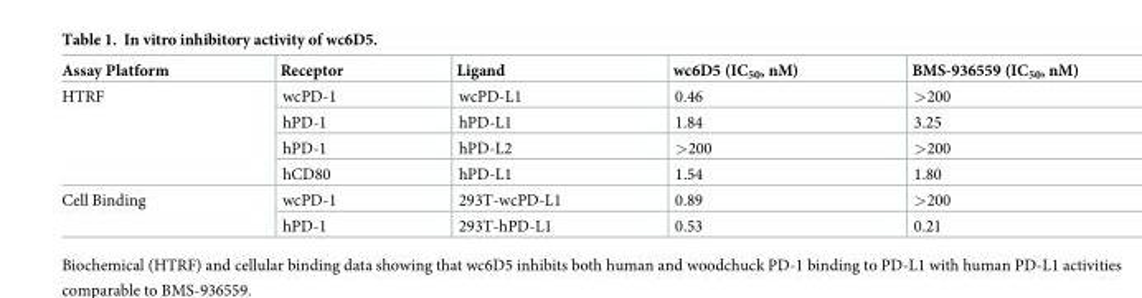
<table><thead><tr><td>Assay Platform</td><td>Receptor</td><td>Ligand</td><td>wc6D5 (IC<sub>50</sub>, nM)</td><td>BMS-936559 (IC<sub>50</sub>, nM)</td></tr></thead><tbody><tr><td rowspan="4">HTRF</td><td>wcPD-1</td><td>wcPD-L1</td><td>0.46</td><td>&gt;200</td></tr><tr><td>hPD-1</td><td>hPD-L1</td><td>1.84</td><td>3.25</td></tr><tr><td>hPD-1</td><td>hPD-L2</td><td>&gt;200</td><td>&gt;200</td></tr><tr><td>hCD80</td><td>hPD-L1</td><td>1.54</td><td>1.80</td></tr><tr><td rowspan="2">Cell Binding</td><td>wcPD-1</td><td>293T-wcPD-L1</td><td>0.89</td><td>&gt;200</td></tr><tr><td>hPD-1</td><td>293T-hPD-L1</td><td>0.53</td><td>0.21</td></tr></tbody></table>